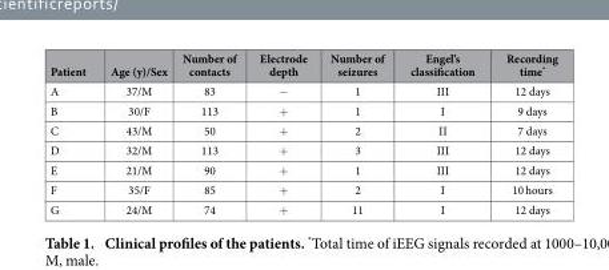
<table><thead><tr><td>Patient</td><td>Age (y)/Sex</td><td>Number of contacts</td><td>Electrode depth</td><td>Number of seizures</td><td>Engel’s classification</td><td>Recording time*</td></tr></thead><tbody><tr><td>A</td><td>37/M</td><td>83</td><td>−</td><td>1</td><td>III</td><td>12 days</td></tr><tr><td>B</td><td>30/F</td><td>113</td><td>+</td><td>1</td><td>I</td><td>9 days</td></tr><tr><td>C</td><td>43/M</td><td>50</td><td>+</td><td>2</td><td>II</td><td>7 days</td></tr><tr><td>D</td><td>32/M</td><td>113</td><td>+</td><td>3</td><td>III</td><td>12 days</td></tr><tr><td>E</td><td>21/M</td><td>90</td><td>+</td><td>1</td><td>III</td><td>12 days</td></tr><tr><td>F</td><td>35/F</td><td>85</td><td>+</td><td>2</td><td>I</td><td>10 hours</td></tr><tr><td>G</td><td>24/M</td><td>74</td><td>+</td><td>11</td><td>I</td><td>12 days</td></tr></tbody></table>